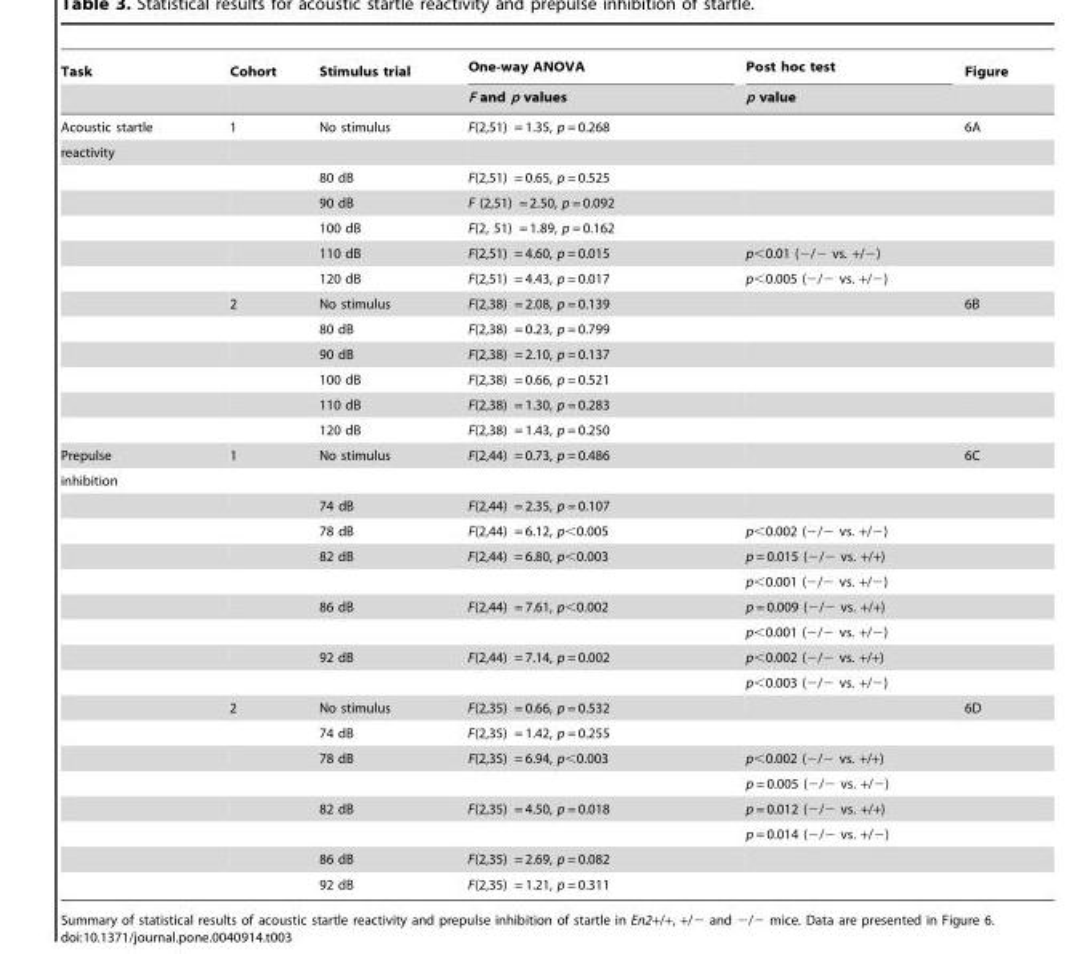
<table><thead><tr><td rowspan="2">Task</td><td rowspan="2">Cohort</td><td rowspan="2">Stimulus trial</td><td rowspan="2">One-way ANOVA F and p values</td><td rowspan="2">Post hoc test p value</td><td rowspan="2">Figure</td></tr><tr></tr></thead><tbody><tr><td>Acoustic startle</td><td>1</td><td>No stimulus</td><td>F(2,51) = 1.35, p = 0.268</td><td></td><td>6A</td></tr><tr><td colspan="6">reactivity</td></tr><tr><td></td><td></td><td>80 dB</td><td>F(2,51) = 0.65, p = 0.525</td><td></td><td></td></tr><tr><td></td><td></td><td>90 dB</td><td>F (2,51) = 2.50, p = 0.092</td><td></td><td></td></tr><tr><td></td><td></td><td>100 dB</td><td>F(2, 51) = 1.89, p = 0.162</td><td></td><td></td></tr><tr><td></td><td></td><td>110 dB</td><td>F(2,51) = 4.60, p = 0.015</td><td>p&lt;0.01 (−/− vs. +/−)</td><td></td></tr><tr><td></td><td></td><td>120 dB</td><td>F(2,51) = 4.43, p = 0.017</td><td>p&lt;0.005 (−/− vs. +/−)</td><td></td></tr><tr><td></td><td>2</td><td>No stimulus</td><td>F(2,38) = 2.08, p = 0.139</td><td></td><td>6B</td></tr><tr><td></td><td></td><td>80 dB</td><td>F(2,38) = 0.23, p = 0.799</td><td></td><td></td></tr><tr><td></td><td></td><td>90 dB</td><td>F(2,38) = 2.10, p = 0.137</td><td></td><td></td></tr><tr><td></td><td></td><td>100 dB</td><td>F(2,38) = 0.66, p = 0.521</td><td></td><td></td></tr><tr><td></td><td></td><td>110 dB</td><td>F(2,38) = 1.30, p = 0.283</td><td></td><td></td></tr><tr><td></td><td></td><td>120 dB</td><td>F(2,38) = 1.43, p = 0.250</td><td></td><td></td></tr><tr><td>Prepulse</td><td>1</td><td>No stimulus</td><td>F(2,44) = 0.73, p = 0.486</td><td></td><td>6C</td></tr><tr><td colspan="6">inhibition</td></tr><tr><td></td><td></td><td>74 dB</td><td>F(2,44) = 2.35, p = 0.107</td><td></td><td></td></tr><tr><td></td><td></td><td>78 dB</td><td>F(2,44) = 6.12, p&lt;0.005</td><td>p&lt;0.002 (−/− vs. +/−)</td><td></td></tr><tr><td></td><td></td><td>82 dB</td><td>F(2,44) = 6.80, p&lt;0.003</td><td>p = 0.015 (−/− vs. +/+)</td><td></td></tr><tr><td></td><td></td><td></td><td></td><td>p&lt;0.001 (−/− vs. +/−)</td><td></td></tr><tr><td></td><td></td><td>86 dB</td><td>F(2,44) = 7.61, p&lt;0.002</td><td>p = 0.009 (−/− vs. +/+)</td><td></td></tr><tr><td></td><td></td><td></td><td></td><td>p&lt;0.001 (−/− vs. +/−)</td><td></td></tr><tr><td></td><td></td><td>92 dB</td><td>F(2,44) = 7.14, p = 0.002</td><td>p&lt;0.002 (−/− vs. +/+)</td><td></td></tr><tr><td></td><td></td><td></td><td></td><td>p&lt;0.003 (−/− vs. +/−)</td><td></td></tr><tr><td></td><td>2</td><td>No stimulus</td><td>F(2,35) = 0.66, p = 0.532</td><td></td><td>6D</td></tr><tr><td></td><td></td><td>74 dB</td><td>F(2,35) = 1.42, p = 0.255</td><td></td><td></td></tr><tr><td></td><td></td><td>78 dB</td><td>F(2,35) = 6.94, p&lt;0.003</td><td>p&lt;0.002 (−/− vs. +/+)</td><td></td></tr><tr><td></td><td></td><td></td><td></td><td>p = 0.005 (−/− vs. +/−)</td><td></td></tr><tr><td></td><td></td><td>82 dB</td><td>F(2,35) = 4.50, p = 0.018</td><td>p = 0.012 (−/− vs. +/+)</td><td></td></tr><tr><td></td><td></td><td></td><td></td><td>p = 0.014 (−/− vs. +/−)</td><td></td></tr><tr><td></td><td></td><td>86 dB</td><td>F(2,35) = 2.69, p = 0.082</td><td></td><td></td></tr><tr><td></td><td></td><td>92 dB</td><td>F(2,35) = 1.21, p = 0.311</td><td></td><td></td></tr></tbody></table>